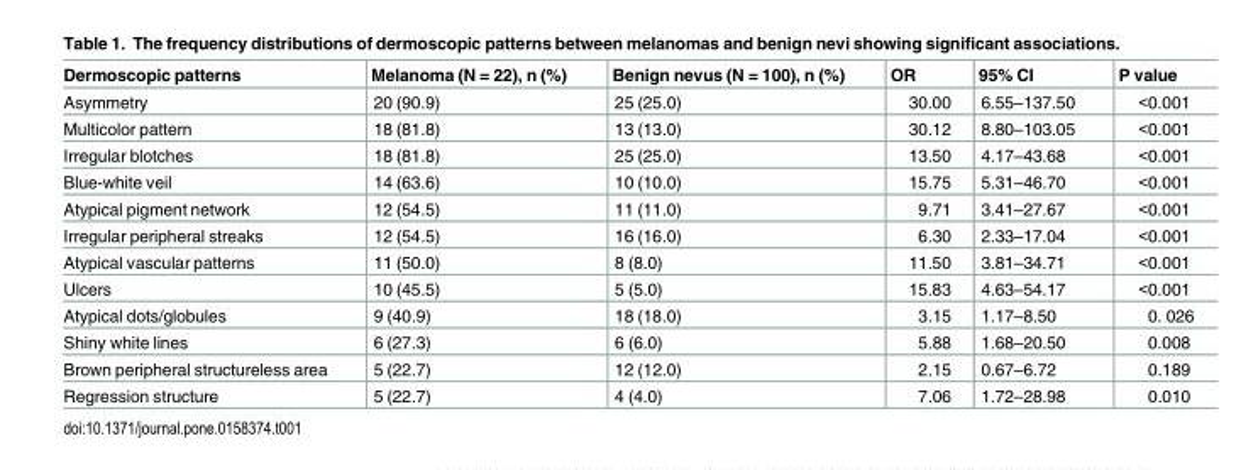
<table><thead><tr><td>Dermoscopic patterns</td><td>Melanoma (N = 22), n (%)</td><td>Benign nevus (N = 100), n (%)</td><td>OR</td><td>95% CI</td><td>P value</td></tr></thead><tbody><tr><td>Asymmetry</td><td>20 (90.9)</td><td>25 (25.0)</td><td>30.00</td><td>6.55–137.50</td><td>&lt;0.001</td></tr><tr><td>Multicolor pattern</td><td>18 (81.8)</td><td>13 (13.0)</td><td>30.12</td><td>8.80–103.05</td><td>&lt;0.001</td></tr><tr><td>Irregular blotches</td><td>18 (81.8)</td><td>25 (25.0)</td><td>13.50</td><td>4.17–43.68</td><td>&lt;0.001</td></tr><tr><td>Blue-white veil</td><td>14 (63.6)</td><td>10 (10.0)</td><td>15.75</td><td>5.31–46.70</td><td>&lt;0.001</td></tr><tr><td>Atypical pigment network</td><td>12 (54.5)</td><td>11 (11.0)</td><td>9.71</td><td>3.41–27.67</td><td>&lt;0.001</td></tr><tr><td>Irregular peripheral streaks</td><td>12 (54.5)</td><td>16 (16.0)</td><td>6.30</td><td>2.33–17.04</td><td>&lt;0.001</td></tr><tr><td>Atypical vascular patterns</td><td>11 (50.0)</td><td>8 (8.0)</td><td>11.50</td><td>3.81–34.71</td><td>&lt;0.001</td></tr><tr><td>Ulcers</td><td>10 (45.5)</td><td>5 (5.0)</td><td>15.83</td><td>4.63–54.17</td><td>&lt;0.001</td></tr><tr><td>Atypical dots/globules</td><td>9 (40.9)</td><td>18 (18.0)</td><td>3.15</td><td>1.17–8.50</td><td>0. 026</td></tr><tr><td>Shiny white lines</td><td>6 (27.3)</td><td>6 (6.0)</td><td>5.88</td><td>1.68–20.50</td><td>0.008</td></tr><tr><td>Brown peripheral structureless area</td><td>5 (22.7)</td><td>12 (12.0)</td><td>2.15</td><td>0.67–6.72</td><td>0.189</td></tr><tr><td>Regression structure</td><td>5 (22.7)</td><td>4 (4.0)</td><td>7.06</td><td>1.72–28.98</td><td>0.010</td></tr></tbody></table>